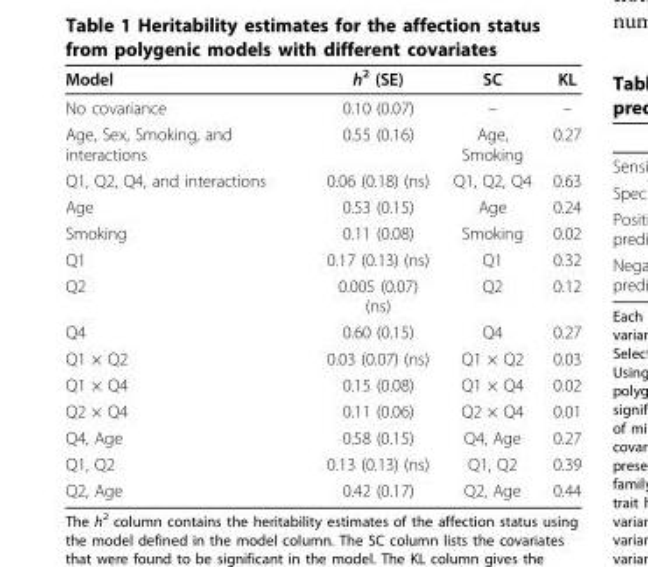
<table><thead><tr><td>Model</td><td>h<sup>2</sup> (SE)</td><td>SC</td><td>KL</td></tr></thead><tbody><tr><td>No covariance</td><td>0.10 (0.07)</td><td>–</td><td>–</td></tr><tr><td>Age, Sex, Smoking, and interactions</td><td>0.55 (0.16)</td><td>Age, Smoking</td><td>0.27</td></tr><tr><td>Q1, Q2, Q4, and interactions</td><td>0.06 (0.18) (ns)</td><td>Q1, Q2, Q4</td><td>0.63</td></tr><tr><td>Age</td><td>0.53 (0.15)</td><td>Age</td><td>0.24</td></tr><tr><td>Smoking</td><td>0.11 (0.08)</td><td>Smoking</td><td>0.02</td></tr><tr><td>Q1</td><td>0.17 (0.13) (ns)</td><td>Q1</td><td>0.32</td></tr><tr><td>Q2</td><td>0.005 (0.07) (ns)</td><td>Q2</td><td>0.12</td></tr><tr><td>Q4</td><td>0.60 (0.15)</td><td>Q4</td><td>0.27</td></tr><tr><td>Q1 × Q2</td><td>0.03 (0.07) (ns)</td><td>Q1 × Q2</td><td>0.03</td></tr><tr><td>Q1 × Q4</td><td>0.15 (0.08)</td><td>Q1 × Q4</td><td>0.02</td></tr><tr><td>Q2 × Q4</td><td>0.11 (0.06)</td><td>Q2 × Q4</td><td>0.01</td></tr><tr><td>Q4, Age</td><td>0.58 (0.15)</td><td>Q4, Age</td><td>0.27</td></tr><tr><td>Q1, Q2</td><td>0.13 (0.13) (ns)</td><td>Q1, Q2</td><td>0.39</td></tr><tr><td>Q2, Age</td><td>0.42 (0.17)</td><td>Q2, Age</td><td>0.44</td></tr></tbody></table>